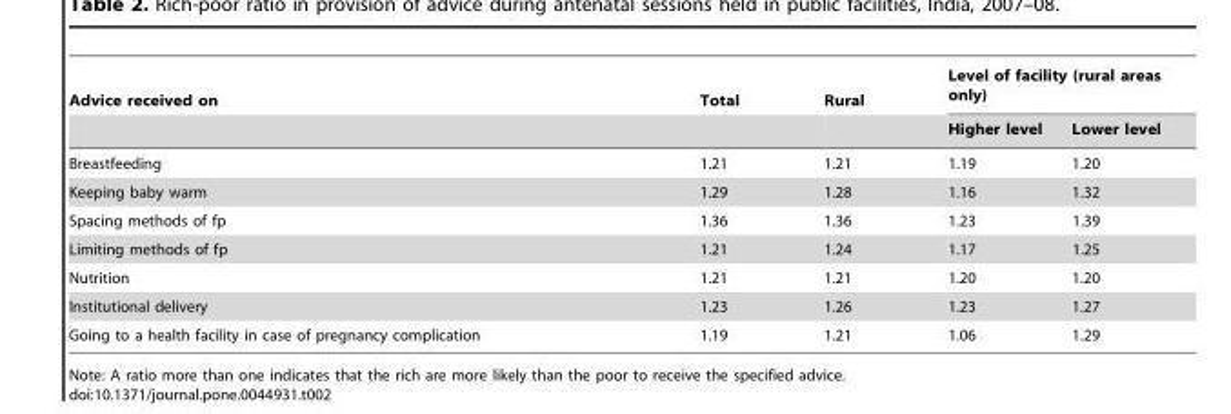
<table><thead><tr><td rowspan="2">Advice received on</td><td rowspan="2">Total</td><td rowspan="2">Rural</td><td colspan="2">Level of facility (rural areas only)</td></tr><tr><td>Higher level</td><td>Lower level</td></tr></thead><tbody><tr><td>Breastfeeding</td><td>1.21</td><td>1.21</td><td>1.19</td><td>1.20</td></tr><tr><td>Keeping baby warm</td><td>1.29</td><td>1.28</td><td>1.16</td><td>1.32</td></tr><tr><td>Spacing methods of fp</td><td>1.36</td><td>1.36</td><td>1.23</td><td>1.39</td></tr><tr><td>Limiting methods of fp</td><td>1.21</td><td>1.24</td><td>1.17</td><td>1.25</td></tr><tr><td>Nutrition</td><td>1.21</td><td>1.21</td><td>1.20</td><td>1.20</td></tr><tr><td>Institutional delivery</td><td>1.23</td><td>1.26</td><td>1.23</td><td>1.27</td></tr><tr><td>Going to a health facility in case of pregnancy complication</td><td>1.19</td><td>1.21</td><td>1.06</td><td>1.29</td></tr></tbody></table>